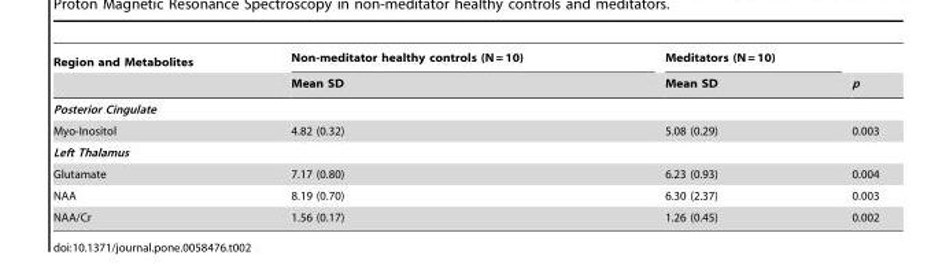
<table><thead><tr><td rowspan="2">Region and Metabolites</td><td rowspan="2">Non-meditator healthy controls (N = 10) Mean SD</td><td rowspan="2">Meditators (N = 10) Mean SD</td><td rowspan="2">p</td></tr><tr></tr></thead><tbody><tr><td colspan="4">Posterior Cingulate</td></tr><tr><td>Myo-Inositol</td><td>4.82 (0.32)</td><td>5.08 (0.29)</td><td>0.003</td></tr><tr><td colspan="4">Left Thalamus</td></tr><tr><td>Glutamate</td><td>7.17 (0.80)</td><td>6.23 (0.93)</td><td>0.004</td></tr><tr><td>NAA</td><td>8.19 (0.70)</td><td>6.30 (2.37)</td><td>0.003</td></tr><tr><td>NAA/Cr</td><td>1.56 (0.17)</td><td>1.26 (0.45)</td><td>0.002</td></tr></tbody></table>